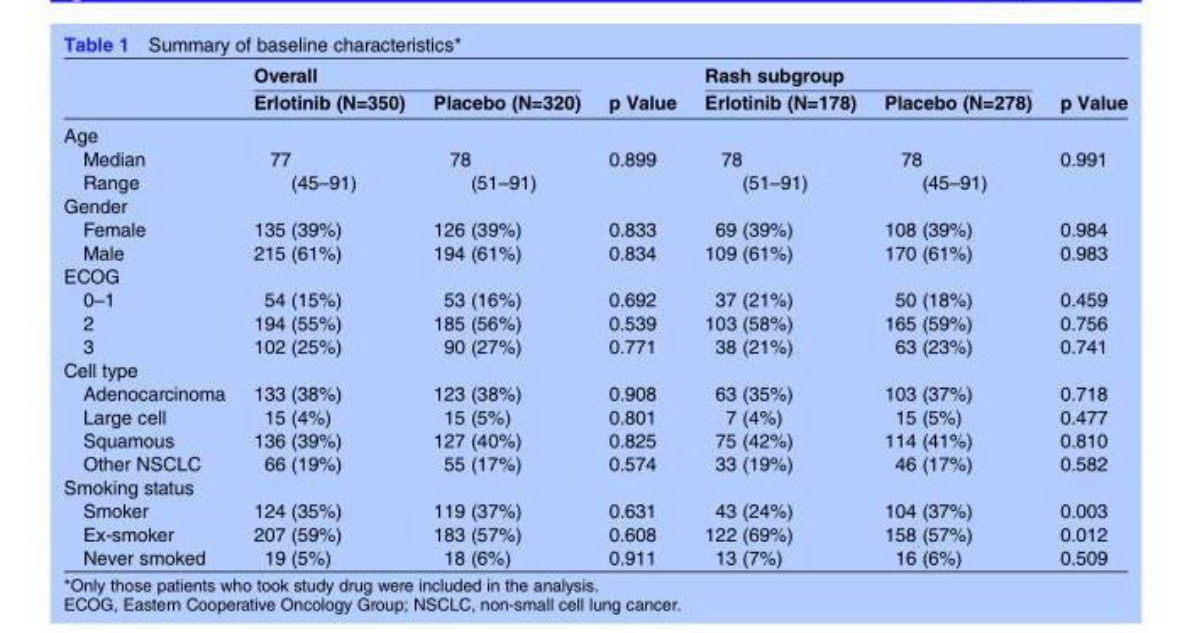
<table><thead><tr><td rowspan="2"></td><td colspan="2">Overall</td><td rowspan="2">p Value</td><td colspan="2">Rash subgroup</td><td rowspan="2">p Value</td></tr><tr><td>Erlotinib (N=350)</td><td>Placebo (N=320)</td><td>Erlotinib (N=178)</td><td>Placebo (N=278)</td></tr></thead><tbody><tr><td colspan="7">Age</td></tr><tr><td>Median</td><td>77</td><td>78</td><td>0.899</td><td>78</td><td>78</td><td>0.991</td></tr><tr><td>Range</td><td>(45–91)</td><td>(51–91)</td><td></td><td>(51–91)</td><td>(45–91)</td><td></td></tr><tr><td colspan="7">Gender</td></tr><tr><td>Female</td><td>135 (39%)</td><td>126 (39%)</td><td>0.833</td><td>69 (39%)</td><td>108 (39%)</td><td>0.984</td></tr><tr><td>Male</td><td>215 (61%)</td><td>194 (61%)</td><td>0.834</td><td>109 (61%)</td><td>170 (61%)</td><td>0.983</td></tr><tr><td colspan="7">ECOG</td></tr><tr><td>0–1</td><td>54 (15%)</td><td>53 (16%)</td><td>0.692</td><td>37 (21%)</td><td>50 (18%)</td><td>0.459</td></tr><tr><td>2</td><td>194 (55%)</td><td>185 (56%)</td><td>0.539</td><td>103 (58%)</td><td>165 (59%)</td><td>0.756</td></tr><tr><td>3</td><td>102 (25%)</td><td>90 (27%)</td><td>0.771</td><td>38 (21%)</td><td>63 (23%)</td><td>0.741</td></tr><tr><td colspan="7">Cell type</td></tr><tr><td>Adenocarcinoma</td><td>133 (38%)</td><td>123 (38%)</td><td>0.908</td><td>63 (35%)</td><td>103 (37%)</td><td>0.718</td></tr><tr><td>Large cell</td><td>15 (4%)</td><td>15 (5%)</td><td>0.801</td><td>7 (4%)</td><td>15 (5%)</td><td>0.477</td></tr><tr><td>Squamous</td><td>136 (39%)</td><td>127 (40%)</td><td>0.825</td><td>75 (42%)</td><td>114 (41%)</td><td>0.810</td></tr><tr><td>Other NSCLC</td><td>66 (19%)</td><td>55 (17%)</td><td>0.574</td><td>33 (19%)</td><td>46 (17%)</td><td>0.582</td></tr><tr><td colspan="7">Smoking status</td></tr><tr><td>Smoker</td><td>124 (35%)</td><td>119 (37%)</td><td>0.631</td><td>43 (24%)</td><td>104 (37%)</td><td>0.003</td></tr><tr><td>Ex-smoker</td><td>207 (59%)</td><td>183 (57%)</td><td>0.608</td><td>122 (69%)</td><td>158 (57%)</td><td>0.012</td></tr><tr><td>Never smoked</td><td>19 (5%)</td><td>18 (6%)</td><td>0.911</td><td>13 (7%)</td><td>16 (6%)</td><td>0.509</td></tr></tbody></table>